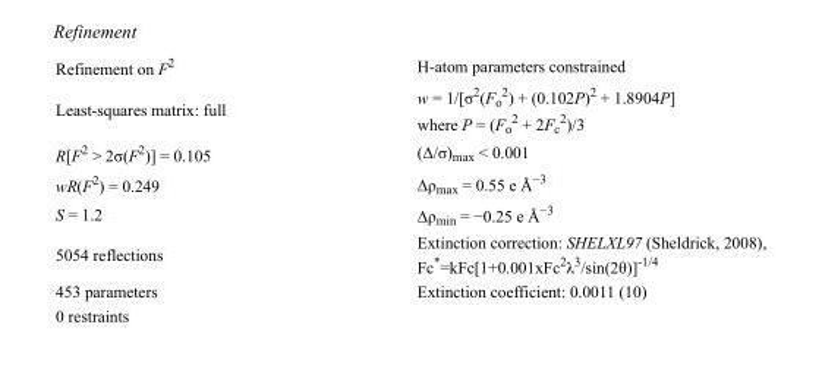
<table><tbody><tr><td>Refinement on F<sup>2</sup></td><td>H-atom parameters constrained</td></tr><tr><td>Least-squares matrix: full</td><td>w = 1/[σ<sup>2</sup>(F<sub>o</sub> <sup>2</sup>) + (0.102P)<sup>2</sup> + 1.8904P] where P = (F<sub>o</sub> <sup>2</sup> + 2F<sub>c</sub> <sup>2</sup>)/3</td></tr><tr><td>R[F<sup>2</sup> &gt; 2σ(F<sup>2</sup>)] = 0.105</td><td>(Δ/σ)<sub>max</sub> &lt; 0.001</td></tr><tr><td>wR(F<sup>2</sup>) = 0.249</td><td>Δρ<sub>max</sub> = 0.55 e Å<sup>−3</sup></td></tr><tr><td>S = 1.2</td><td>Δρ<sub>min</sub> = −0.25 e Å<sup>−3</sup></td></tr><tr><td>5054 reflections</td><td>Extinction correction: SHELXL97 (Sheldrick, 2008), Fc*=kFc[1+0.001xFc<sup>2</sup>λ<sup>3</sup>/sin(2θ)]<sup>-1/4</sup></td></tr><tr><td>453 parameters</td><td>Extinction coefficient: 0.0011 (10)</td></tr><tr><td>0 restraints</td><td></td></tr></tbody></table>